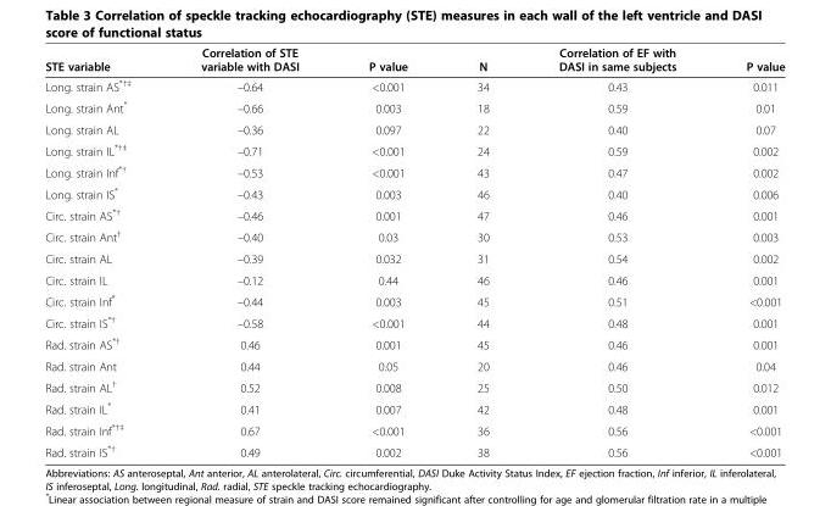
<table><thead><tr><td>STE variable</td><td>Correlation of STE variable with DASI</td><td>P value</td><td>N</td><td>Correlation of EF with DASI in same subjects</td><td>P value</td></tr></thead><tbody><tr><td>Long. strain AS<sup>*†‡</sup></td><td>–0.64</td><td>&lt;0.001</td><td>34</td><td>0.43</td><td>0.011</td></tr><tr><td>Long. strain Ant*</td><td>–0.66</td><td>0.003</td><td>18</td><td>0.59</td><td>0.01</td></tr><tr><td>Long. strain AL</td><td>–0.36</td><td>0.097</td><td>22</td><td>0.40</td><td>0.07</td></tr><tr><td>Long. strain IL<sup>*†‡</sup></td><td>–0.71</td><td>&lt;0.001</td><td>24</td><td>0.59</td><td>0.002</td></tr><tr><td>Long. strain Inf<sup>*†</sup></td><td>–0.53</td><td>&lt;0.001</td><td>43</td><td>0.47</td><td>0.002</td></tr><tr><td>Long. strain IS*</td><td>–0.43</td><td>0.003</td><td>46</td><td>0.40</td><td>0.006</td></tr><tr><td>Circ. strain AS<sup>*†</sup></td><td>–0.46</td><td>0.001</td><td>47</td><td>0.46</td><td>0.001</td></tr><tr><td>Circ. strain Ant<sup>†</sup></td><td>–0.40</td><td>0.03</td><td>30</td><td>0.53</td><td>0.003</td></tr><tr><td>Circ. strain AL</td><td>–0.39</td><td>0.032</td><td>31</td><td>0.54</td><td>0.002</td></tr><tr><td>Circ. strain IL</td><td>–0.12</td><td>0.44</td><td>46</td><td>0.46</td><td>0.001</td></tr><tr><td>Circ. strain Inf*</td><td>–0.44</td><td>0.003</td><td>45</td><td>0.51</td><td>&lt;0.001</td></tr><tr><td>Circ. strain IS<sup>*†</sup></td><td>–0.58</td><td>&lt;0.001</td><td>44</td><td>0.48</td><td>0.001</td></tr><tr><td>Rad. strain AS<sup>*†</sup></td><td>0.46</td><td>0.001</td><td>45</td><td>0.46</td><td>0.001</td></tr><tr><td>Rad. strain Ant</td><td>0.44</td><td>0.05</td><td>20</td><td>0.46</td><td>0.04</td></tr><tr><td>Rad. strain AL<sup>†</sup></td><td>0.52</td><td>0.008</td><td>25</td><td>0.50</td><td>0.012</td></tr><tr><td>Rad. strain IL*</td><td>0.41</td><td>0.007</td><td>42</td><td>0.48</td><td>0.001</td></tr><tr><td>Rad. strain Inf<sup>*†‡</sup></td><td>0.67</td><td>&lt;0.001</td><td>36</td><td>0.56</td><td>&lt;0.001</td></tr><tr><td>Rad. strain IS<sup>*†</sup></td><td>0.49</td><td>0.002</td><td>38</td><td>0.56</td><td>&lt;0.001</td></tr></tbody></table>